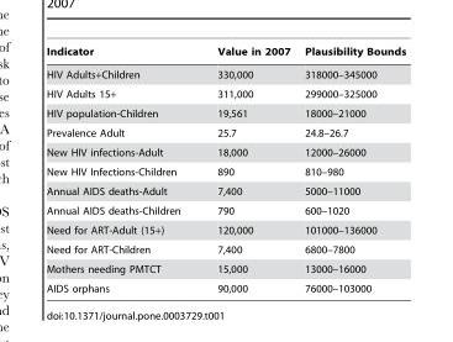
<table><thead><tr><td>Indicator</td><td>Value in 2007</td><td>Plausibility Bounds</td></tr></thead><tbody><tr><td>HIV Adults+Children</td><td>330,000</td><td>318000–345000</td></tr><tr><td>HIV Adults 15+</td><td>311,000</td><td>299000–325000</td></tr><tr><td>HIV population-Children</td><td>19,561</td><td>18000–21000</td></tr><tr><td>Prevalence Adult</td><td>25.7</td><td>24.8–26.7</td></tr><tr><td>New HIV infections-Adult</td><td>18,000</td><td>12000–26000</td></tr><tr><td>New HIV Infections-Children</td><td>890</td><td>810–980</td></tr><tr><td>Annual AIDS deaths-Adult</td><td>7,400</td><td>5000–11000</td></tr><tr><td>Annual AIDS deaths-Children</td><td>790</td><td>600–1020</td></tr><tr><td>Need for ART-Adult (15+)</td><td>120,000</td><td>101000–136000</td></tr><tr><td>Need for ART-Children</td><td>7,400</td><td>6800–7800</td></tr><tr><td>Mothers needing PMTCT</td><td>15,000</td><td>13000–16000</td></tr><tr><td>AIDS orphans</td><td>90,000</td><td>76000–103000</td></tr></tbody></table>